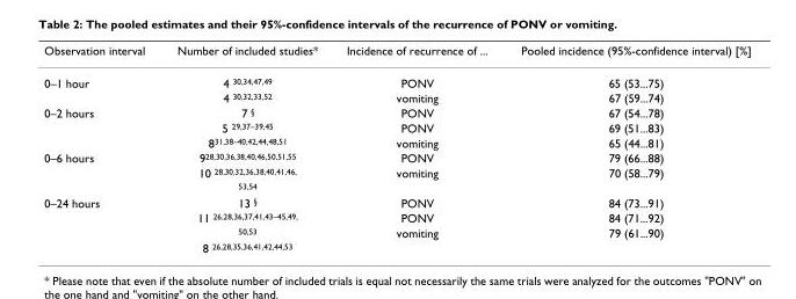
<table><thead><tr><td>Observation interval</td><td>Number of included studies*</td><td>Incidence of recurrence of ...</td><td>Pooled incidence (95%-confidence interval) [%]</td></tr></thead><tbody><tr><td rowspan="2">0–1 hour</td><td>4 <sup>30,34,47,49</sup></td><td>PONV</td><td>65 (53...75)</td></tr><tr><td>4 <sup>30,32,33,52</sup></td><td>vomiting</td><td>67 (59...74)</td></tr><tr><td rowspan="3">0–2 hours</td><td>7 <sup>§</sup></td><td>PONV</td><td>67 (54...78)</td></tr><tr><td>5 <sup>29,37–39,45</sup></td><td>PONV</td><td>69 (51...83)</td></tr><tr><td>8<sup>31,38–40,42,44,48,51</sup></td><td>vomiting</td><td>65 (44...81)</td></tr><tr><td rowspan="3">0–6 hours</td><td>9<sup>28,30,36,38,40,46,50,51,55</sup></td><td>PONV</td><td>79 (66...88)</td></tr><tr><td>10 <sup>28,30,32,36,38,40,41,46,</sup></td><td>vomiting</td><td>70 (58...79)</td></tr><tr><td><sup>53,54</sup></td><td></td><td></td></tr><tr><td rowspan="4">0–24 hours</td><td>13 <sup>§</sup></td><td>PONV</td><td>84 (73...91)</td></tr><tr><td>11 <sup>26,28,36,37,41,43–45,49,</sup></td><td>PONV</td><td>84 (71...92)</td></tr><tr><td><sup>50,53</sup></td><td>vomiting</td><td>79 (61...90)</td></tr><tr><td>8 <sup>26,28,35,36,41,42,44,53</sup></td><td></td><td></td></tr></tbody></table>